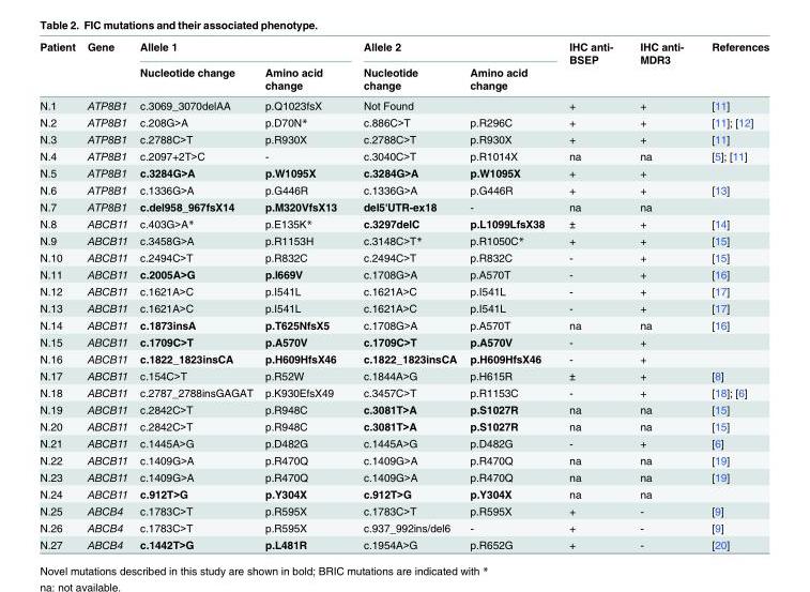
<table><thead><tr><td rowspan="2">Patient</td><td rowspan="2">Gene</td><td colspan="2">Allele 1</td><td colspan="2">Allele 2</td><td rowspan="2">IHC anti- BSEP</td><td rowspan="2">IHC anti- MDR3</td><td rowspan="2">References</td></tr><tr><td>Nucleotide change</td><td>Amino acid change</td><td>Nucleotide change</td><td>Amino acid change</td></tr></thead><tbody><tr><td>N.1</td><td>ATP8B1</td><td>c.3069_3070delAA</td><td>p.Q1023fsX</td><td>Not Found</td><td></td><td>+</td><td>+</td><td>[11]</td></tr><tr><td>N.2</td><td>ATP8B1</td><td>c.208G&gt;A</td><td>p.D70N*</td><td>c.886C&gt;T</td><td>p.R296C</td><td>+</td><td>+</td><td>[11]; [12]</td></tr><tr><td>N.3</td><td>ATP8B1</td><td>c.2788C&gt;T</td><td>p.R930X</td><td>c.2788C&gt;T</td><td>p.R930X</td><td>+</td><td>+</td><td>[11]</td></tr><tr><td>N.4</td><td>ATP8B1</td><td>c.2097+2T&gt;C</td><td>-</td><td>c.3040C&gt;T</td><td>p.R1014X</td><td>na</td><td>na</td><td>[5]; [11]</td></tr><tr><td>N.5</td><td>ATP8B1</td><td>c.3284G&gt;A</td><td>p.W1095X</td><td>c.3284G&gt;A</td><td>p.W1095X</td><td>+</td><td>+</td><td></td></tr><tr><td>N.6</td><td>ATP8B1</td><td>c.1336G&gt;A</td><td>p.G446R</td><td>c.1336G&gt;A</td><td>p.G446R</td><td>+</td><td>+</td><td>[13]</td></tr><tr><td>N.7</td><td>ATP8B1</td><td>c.del958_967fsX14</td><td>p.M320VfsX13</td><td>del5&#x27;UTR-ex18</td><td>-</td><td>na</td><td>na</td><td></td></tr><tr><td>N.8</td><td>ABCB11</td><td>c.403G&gt;A*</td><td>p.E135K*</td><td>c.3297delC</td><td>p.L1099LfsX38</td><td>±</td><td>+</td><td>[14]</td></tr><tr><td>N.9</td><td>ABCB11</td><td>c.3458G&gt;A</td><td>p.R1153H</td><td>c.3148C&gt;T*</td><td>p.R1050C*</td><td>+</td><td>+</td><td>[15]</td></tr><tr><td>N.10</td><td>ABCB11</td><td>c.2494C&gt;T</td><td>p.R832C</td><td>c.2494C&gt;T</td><td>p.R832C</td><td>-</td><td>+</td><td>[15]</td></tr><tr><td>N.11</td><td>ABCB11</td><td>c.2005A&gt;G</td><td>p.I669V</td><td>c.1708G&gt;A</td><td>p.A570T</td><td>-</td><td>+</td><td>[16]</td></tr><tr><td>N.12</td><td>ABCB11</td><td>c.1621A&gt;C</td><td>p.I541L</td><td>c.1621A&gt;C</td><td>p.I541L</td><td>-</td><td>+</td><td>[17]</td></tr><tr><td>N.13</td><td>ABCB11</td><td>c.1621A&gt;C</td><td>p.I541L</td><td>c.1621A&gt;C</td><td>p.I541L</td><td>-</td><td>+</td><td>[17]</td></tr><tr><td>N.14</td><td>ABCB11</td><td>c.1873insA</td><td>p.T625NfsX5</td><td>c.1708G&gt;A</td><td>p.A570T</td><td>na</td><td>na</td><td>[16]</td></tr><tr><td>N.15</td><td>ABCB11</td><td>c.1709C&gt;T</td><td>p.A570V</td><td>c.1709C&gt;T</td><td>p.A570V</td><td>-</td><td>+</td><td></td></tr><tr><td>N.16</td><td>ABCB11</td><td>c.1822_1823insCA</td><td>p.H609HfsX46</td><td>c.1822_1823insCA</td><td>p.H609HfsX46</td><td>-</td><td>+</td><td></td></tr><tr><td>N.17</td><td>ABCB11</td><td>c.154C&gt;T</td><td>p.R52W</td><td>c.1844A&gt;G</td><td>p.H615R</td><td>±</td><td>+</td><td>[8]</td></tr><tr><td>N.18</td><td>ABCB11</td><td>c.2787_2788insGAGAT</td><td>p.K930EfsX49</td><td>c.3457C&gt;T</td><td>p.R1153C</td><td>-</td><td>+</td><td>[18]; [6]</td></tr><tr><td>N.19</td><td>ABCB11</td><td>c.2842C&gt;T</td><td>p.R948C</td><td>c.3081T&gt;A</td><td>p.S1027R</td><td>na</td><td>na</td><td>[15]</td></tr><tr><td>N.20</td><td>ABCB11</td><td>c.2842C&gt;T</td><td>p.R948C</td><td>c.3081T&gt;A</td><td>p.S1027R</td><td>na</td><td>na</td><td>[15]</td></tr><tr><td>N.21</td><td>ABCB11</td><td>c.1445A&gt;G</td><td>p.D482G</td><td>c.1445A&gt;G</td><td>p.D482G</td><td>-</td><td>+</td><td>[6]</td></tr><tr><td>N.22</td><td>ABCB11</td><td>c.1409G&gt;A</td><td>p.R470Q</td><td>c.1409G&gt;A</td><td>p.R470Q</td><td>na</td><td>na</td><td>[19]</td></tr><tr><td>N.23</td><td>ABCB11</td><td>c.1409G&gt;A</td><td>p.R470Q</td><td>c.1409G&gt;A</td><td>p.R470Q</td><td>na</td><td>na</td><td>[19]</td></tr><tr><td>N.24</td><td>ABCB11</td><td>c.912T&gt;G</td><td>p.Y304X</td><td>c.912T&gt;G</td><td>p.Y304X</td><td>na</td><td>na</td><td></td></tr><tr><td>N.25</td><td>ABCB4</td><td>c.1783C&gt;T</td><td>p.R595X</td><td>c.1783C&gt;T</td><td>p.R595X</td><td>+</td><td>-</td><td>[9]</td></tr><tr><td>N.26</td><td>ABCB4</td><td>c.1783C&gt;T</td><td>p.R595X</td><td>c.937_992ins/del6</td><td>-</td><td>+</td><td>-</td><td>[9]</td></tr><tr><td>N.27</td><td>ABCB4</td><td>c.1442T&gt;G</td><td>p.L481R</td><td>c.1954A&gt;G</td><td>p.R652G</td><td>+</td><td>-</td><td>[20]</td></tr></tbody></table>